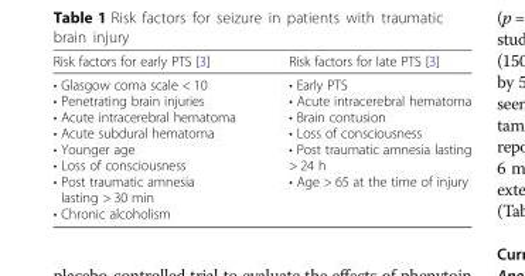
<table><thead><tr><td>Risk factors for early PTS [3]</td><td>Risk factors for late PTS [3]</td></tr></thead><tbody><tr><td>• Glasgow coma scale &lt; 10 • Penetrating brain injuries • Acute intracerebral hematoma • Acute subdural hematoma • Younger age • Loss of consciousness • Post traumatic amnesia lasting &gt; 30 min • Chronic alcoholism</td><td>• Early PTS • Acute intracerebral hematoma • Brain contusion • Loss of consciousness • Post traumatic amnesia lasting &gt; 24 h • Age &gt; 65 at the time of injury</td></tr></tbody></table>